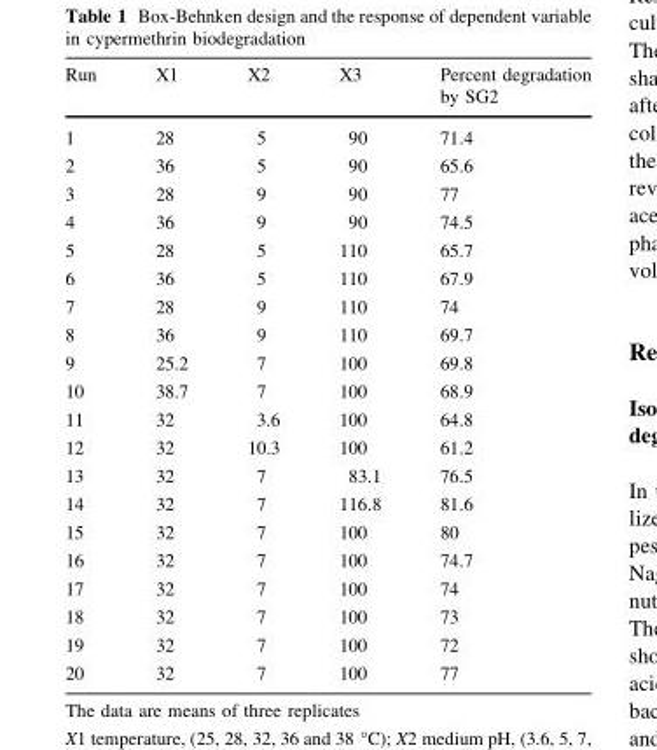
<table><thead><tr><td>Run</td><td>X1</td><td>X2</td><td>X3</td><td>Percent degradation by SG2</td></tr></thead><tbody><tr><td>1</td><td>28</td><td>5</td><td>90</td><td>71.4</td></tr><tr><td>2</td><td>36</td><td>5</td><td>90</td><td>65.6</td></tr><tr><td>3</td><td>28</td><td>9</td><td>90</td><td>77</td></tr><tr><td>4</td><td>36</td><td>9</td><td>90</td><td>74.5</td></tr><tr><td>5</td><td>28</td><td>5</td><td>110</td><td>65.7</td></tr><tr><td>6</td><td>36</td><td>5</td><td>110</td><td>67.9</td></tr><tr><td>7</td><td>28</td><td>9</td><td>110</td><td>74</td></tr><tr><td>8</td><td>36</td><td>9</td><td>110</td><td>69.7</td></tr><tr><td>9</td><td>25.2</td><td>7</td><td>100</td><td>69.8</td></tr><tr><td>10</td><td>38.7</td><td>7</td><td>100</td><td>68.9</td></tr><tr><td>11</td><td>32</td><td>3.6</td><td>100</td><td>64.8</td></tr><tr><td>12</td><td>32</td><td>10.3</td><td>100</td><td>61.2</td></tr><tr><td>13</td><td>32</td><td>7</td><td>83.1</td><td>76.5</td></tr><tr><td>14</td><td>32</td><td>7</td><td>116.8</td><td>81.6</td></tr><tr><td>15</td><td>32</td><td>7</td><td>100</td><td>80</td></tr><tr><td>16</td><td>32</td><td>7</td><td>100</td><td>74.7</td></tr><tr><td>17</td><td>32</td><td>7</td><td>100</td><td>74</td></tr><tr><td>18</td><td>32</td><td>7</td><td>100</td><td>73</td></tr><tr><td>19</td><td>32</td><td>7</td><td>100</td><td>72</td></tr><tr><td>20</td><td>32</td><td>7</td><td>100</td><td>77</td></tr></tbody></table>